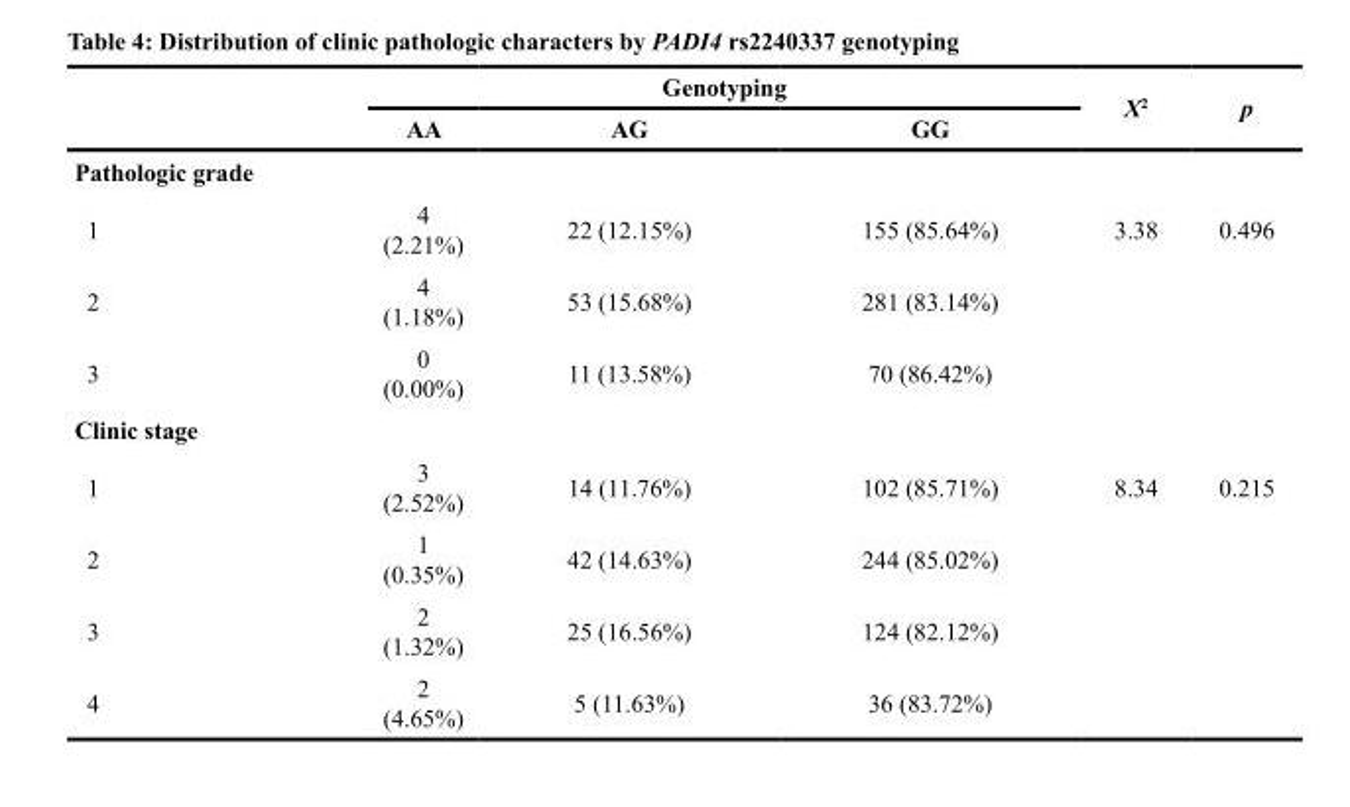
<table><thead><tr><td rowspan="2"></td><td colspan="3">Genotyping</td><td rowspan="2">Χ<sup>2</sup></td><td rowspan="2">p</td></tr><tr><td>AA</td><td>AG</td><td>GG</td></tr></thead><tbody><tr><td colspan="6">Pathologic grade</td></tr><tr><td>1</td><td>4 (2.21%)</td><td>22 (12.15%)</td><td>155 (85.64%)</td><td>3.38</td><td>0.496</td></tr><tr><td>2</td><td>4 (1.18%)</td><td>53 (15.68%)</td><td>281 (83.14%)</td><td></td><td></td></tr><tr><td>3</td><td>0 (0.00%)</td><td>11 (13.58%)</td><td>70 (86.42%)</td><td></td><td></td></tr><tr><td colspan="6">Clinic stage</td></tr><tr><td>1</td><td>3 (2.52%)</td><td>14 (11.76%)</td><td>102 (85.71%)</td><td>8.34</td><td>0.215</td></tr><tr><td>2</td><td>1 (0.35%)</td><td>42 (14.63%)</td><td>244 (85.02%)</td><td></td><td></td></tr><tr><td>3</td><td>2 (1.32%)</td><td>25 (16.56%)</td><td>124 (82.12%)</td><td></td><td></td></tr><tr><td>4</td><td>2 (4.65%)</td><td>5 (11.63%)</td><td>36 (83.72%)</td><td></td><td></td></tr></tbody></table>